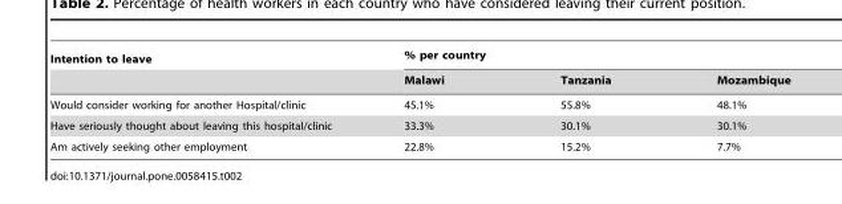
<table><thead><tr><td rowspan="2">Intention to leave</td><td colspan="3">% per country</td></tr><tr><td>Malawi</td><td>Tanzania</td><td>Mozambique</td></tr></thead><tbody><tr><td>Would consider working for another Hospital/clinic</td><td>45.1%</td><td>55.8%</td><td>48.1%</td></tr><tr><td>Have seriously thought about leaving this hospital/clinic</td><td>33.3%</td><td>30.1%</td><td>30.1%</td></tr><tr><td>Am actively seeking other employment</td><td>22.8%</td><td>15.2%</td><td>7.7%</td></tr></tbody></table>